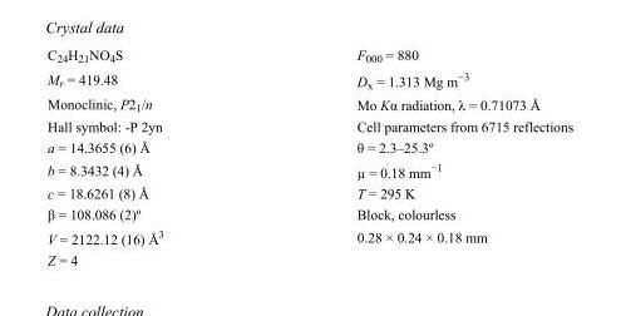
<table><tbody><tr><td>C<sub>24</sub>H<sub>21</sub>NO<sub>4</sub>S</td><td>F000 = 880</td></tr><tr><td>M<sub>r</sub> = 419.48</td><td>D<sub>x</sub> = 1.313 Mg m<sup>−3</sup></td></tr><tr><td>Monoclinic, P2<sub>1</sub>/n</td><td>Mo Kα radiation, λ = 0.71073 Å</td></tr><tr><td>Hall symbol: -P 2yn</td><td>Cell parameters from 6715 reflections</td></tr><tr><td>a = 14.3655 (6) Å</td><td>θ = 2.3–25.3º</td></tr><tr><td>b = 8.3432 (4) Å</td><td>µ = 0.18 mm<sup>−1</sup></td></tr><tr><td>c = 18.6261 (8) Å</td><td>T = 295 K</td></tr><tr><td>β = 108.086 (2)º</td><td>Block, colourless</td></tr><tr><td>V = 2122.12 (16) Å<sup>3</sup></td><td>0.28 × 0.24 × 0.18 mm</td></tr><tr><td>Z = 4</td><td></td></tr></tbody></table>